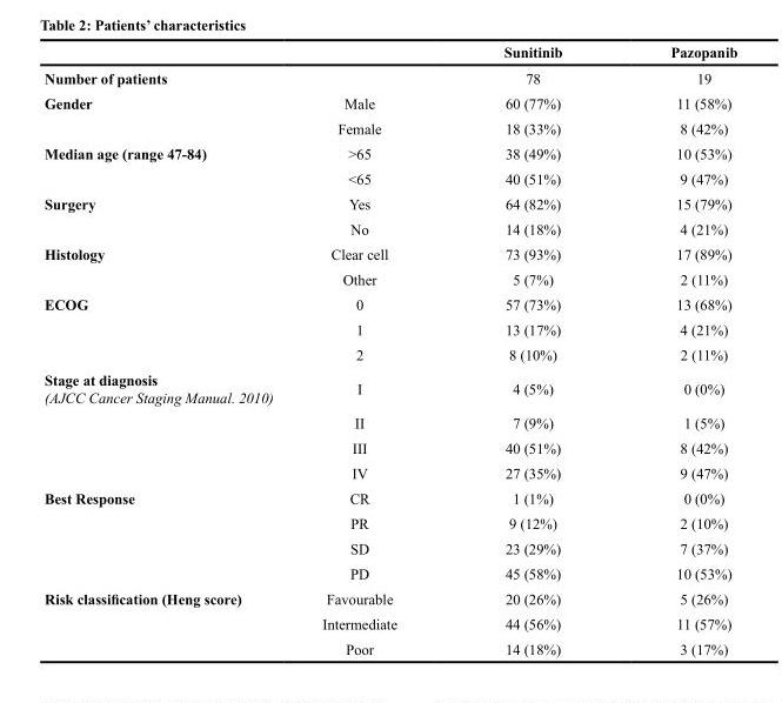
<table><thead><tr><td></td><td></td><td>Sunitinib</td><td>Pazopanib</td></tr></thead><tbody><tr><td>Number of patients</td><td></td><td>78</td><td>19</td></tr><tr><td rowspan="2">Gender</td><td>Male</td><td>60 (77%)</td><td>11 (58%)</td></tr><tr><td>Female</td><td>18 (33%)</td><td>8 (42%)</td></tr><tr><td rowspan="2">Median age (range 47-84)</td><td>&gt;65</td><td>38 (49%)</td><td>10 (53%)</td></tr><tr><td>&lt;65</td><td>40 (51%)</td><td>9 (47%)</td></tr><tr><td rowspan="2">Surgery</td><td>Yes</td><td>64 (82%)</td><td>15 (79%)</td></tr><tr><td>No</td><td>14 (18%)</td><td>4 (21%)</td></tr><tr><td rowspan="2">Histology</td><td>Clear cell</td><td>73 (93%)</td><td>17 (89%)</td></tr><tr><td>Other</td><td>5 (7%)</td><td>2 (11%)</td></tr><tr><td rowspan="3">ECOG</td><td>0</td><td>57 (73%)</td><td>13 (68%)</td></tr><tr><td>1</td><td>13 (17%)</td><td>4 (21%)</td></tr><tr><td>2</td><td>8 (10%)</td><td>2 (11%)</td></tr><tr><td rowspan="4">Stage at diagnosis (AJCC Cancer Staging Manual. 2010)</td><td>I</td><td>4 (5%)</td><td>0 (0%)</td></tr><tr><td>II</td><td>7 (9%)</td><td>1 (5%)</td></tr><tr><td>III</td><td>40 (51%)</td><td>8 (42%)</td></tr><tr><td>IV</td><td>27 (35%)</td><td>9 (47%)</td></tr><tr><td rowspan="4">Best Response</td><td>CR</td><td>1 (1%)</td><td>0 (0%)</td></tr><tr><td>PR</td><td>9 (12%)</td><td>2 (10%)</td></tr><tr><td>SD</td><td>23 (29%)</td><td>7 (37%)</td></tr><tr><td>PD</td><td>45 (58%)</td><td>10 (53%)</td></tr><tr><td rowspan="3">Risk classification (Heng score)</td><td>Favourable</td><td>20 (26%)</td><td>5 (26%)</td></tr><tr><td>Intermediate</td><td>44 (56%)</td><td>11 (57%)</td></tr><tr><td>Poor</td><td>14 (18%)</td><td>3 (17%)</td></tr></tbody></table>